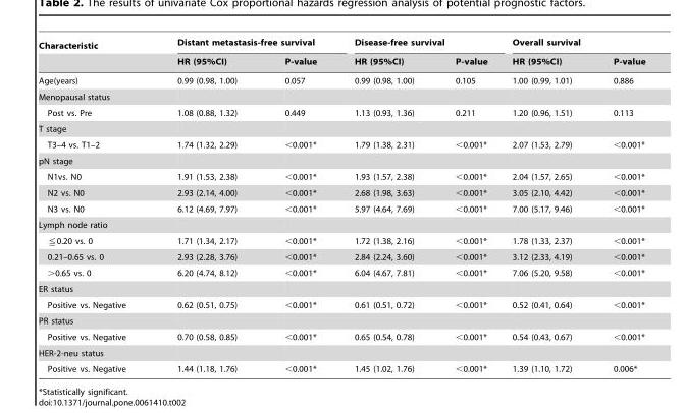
<table><thead><tr><td rowspan="2">Characteristic</td><td colspan="2">Distant metastasis-free survival</td><td colspan="2">Disease-free survival</td><td colspan="2">Overall survival</td></tr><tr><td>HR (95%CI)</td><td>P-value</td><td>HR (95%CI)</td><td>P-value</td><td>HR (95%CI)</td><td>P-value</td></tr></thead><tbody><tr><td>Age(years)</td><td>0.99 (0.98, 1.00)</td><td>0.057</td><td>0.99 (0.98, 1.00)</td><td>0.105</td><td>1.00 (0.99, 1.01)</td><td>0.886</td></tr><tr><td colspan="7">Menopausal status</td></tr><tr><td>Post vs. Pre</td><td>1.08 (0.88, 1.32)</td><td>0.449</td><td>1.13 (0.93, 1.36)</td><td>0.211</td><td>1.20 (0.96, 1.51)</td><td>0.113</td></tr><tr><td colspan="7">T stage</td></tr><tr><td>T3–4 vs. T1–2</td><td>1.74 (1.32, 2.29)</td><td>&lt;0.001*</td><td>1.79 (1.38, 2.31)</td><td>&lt;0.001*</td><td>2.07 (1.53, 2.79)</td><td>&lt;0.001*</td></tr><tr><td colspan="7">pN stage</td></tr><tr><td>N1vs. N0</td><td>1.91 (1.53, 2.38)</td><td>&lt;0.001*</td><td>1.93 (1.57, 2.38)</td><td>&lt;0.001*</td><td>2.04 (1.57, 2.65)</td><td>&lt;0.001*</td></tr><tr><td>N2 vs. N0</td><td>2.93 (2.14, 4.00)</td><td>&lt;0.001*</td><td>2.68 (1.98, 3.63)</td><td>&lt;0.001*</td><td>3.05 (2.10, 4.42)</td><td>&lt;0.001*</td></tr><tr><td>N3 vs. N0</td><td>6.12 (4.69, 7.97)</td><td>&lt;0.001*</td><td>5.97 (4.64, 7.69)</td><td>&lt;0.001*</td><td>7.00 (5.17, 9.46)</td><td>&lt;0.001*</td></tr><tr><td colspan="7">Lymph node ratio</td></tr><tr><td>≦0.20 vs. 0</td><td>1.71 (1.34, 2.17)</td><td>&lt;0.001*</td><td>1.72 (1.38, 2.16)</td><td>&lt;0.001*</td><td>1.78 (1.33, 2.37)</td><td>&lt;0.001*</td></tr><tr><td>0.21–0.65 vs. 0</td><td>2.93 (2.28, 3.76)</td><td>&lt;0.001*</td><td>2.84 (2.24, 3.60)</td><td>&lt;0.001*</td><td>3.12 (2.33, 4.19)</td><td>&lt;0.001*</td></tr><tr><td>&gt;0.65 vs. 0</td><td>6.20 (4.74, 8.12)</td><td>&lt;0.001*</td><td>6.04 (4.67, 7.81)</td><td>&lt;0.001*</td><td>7.06 (5.20, 9.58)</td><td>&lt;0.001*</td></tr><tr><td colspan="7">ER status</td></tr><tr><td>Positive vs. Negative</td><td>0.62 (0.51, 0.75)</td><td>&lt;0.001*</td><td>0.61 (0.51, 0.72)</td><td>&lt;0.001*</td><td>0.52 (0.41, 0.64)</td><td>&lt;0.001*</td></tr><tr><td colspan="7">PR status</td></tr><tr><td>Positive vs. Negative</td><td>0.70 (0.58, 0.85)</td><td>&lt;0.001*</td><td>0.65 (0.54, 0.78)</td><td>&lt;0.001*</td><td>0.54 (0.43, 0.67)</td><td>&lt;0.001*</td></tr><tr><td colspan="7">HER-2-neu status</td></tr><tr><td>Positive vs. Negative</td><td>1.44 (1.18, 1.76)</td><td>&lt;0.001*</td><td>1.45 (1.02, 1.76)</td><td>&lt;0.001*</td><td>1.39 (1.10, 1.72)</td><td>0.006*</td></tr></tbody></table>